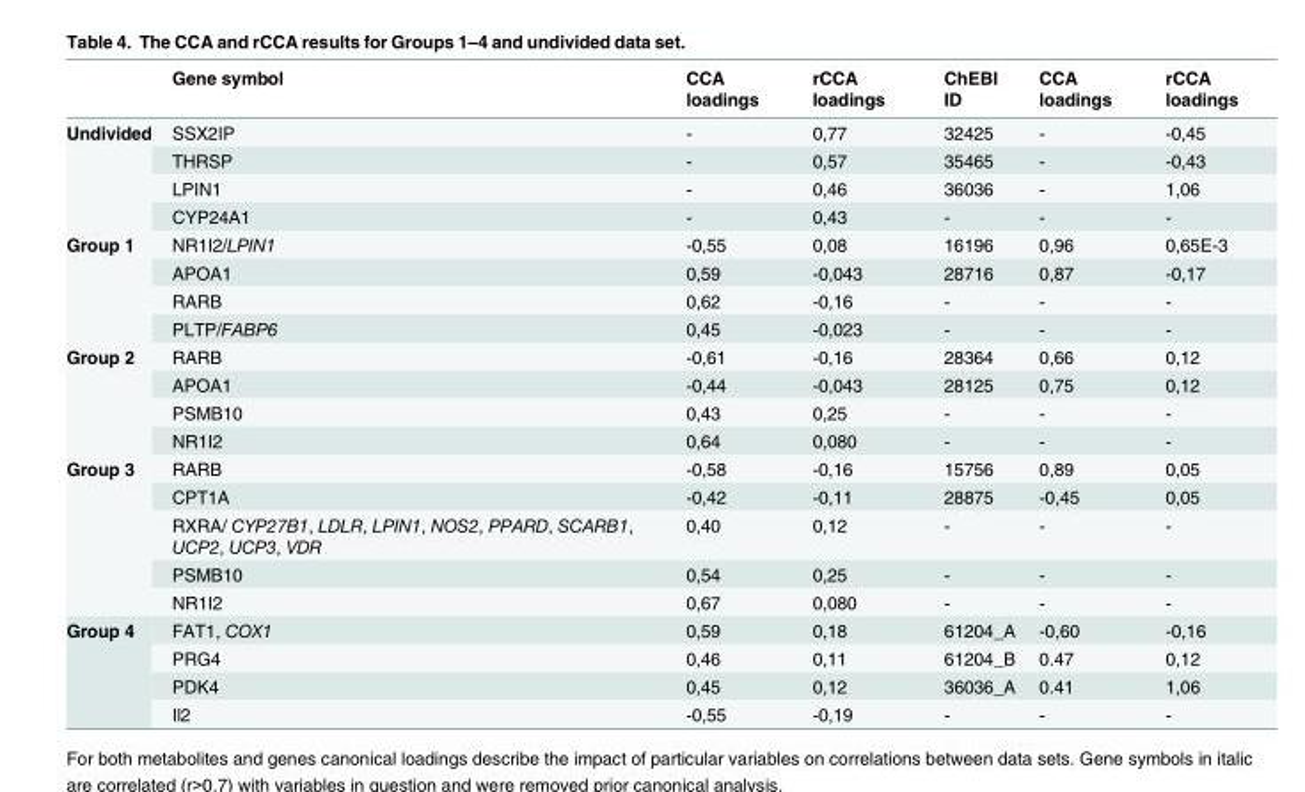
<table><thead><tr><td></td><td>Gene symbol</td><td>CCA loadings</td><td>rCCA loadings</td><td>ChEBI ID</td><td>CCA loadings</td><td>rCCA loadings</td></tr></thead><tbody><tr><td rowspan="4">Undivided</td><td>SSX2IP</td><td>-</td><td>0,77</td><td>32425</td><td>-</td><td>-0,45</td></tr><tr><td>THRSP</td><td>-</td><td>0,57</td><td>35465</td><td>-</td><td>-0,43</td></tr><tr><td>LPIN1</td><td>-</td><td>0,46</td><td>36036</td><td>-</td><td>1,06</td></tr><tr><td>CYP24A1</td><td>-</td><td>0,43</td><td>-</td><td>-</td><td>-</td></tr><tr><td rowspan="4">Group 1</td><td>NR1I2/LPIN1</td><td>-0,55</td><td>0,08</td><td>16196</td><td>0,96</td><td>0,65E-3</td></tr><tr><td>APOA1</td><td>0,59</td><td>-0,043</td><td>28716</td><td>0,87</td><td>-0,17</td></tr><tr><td>RARB</td><td>0,62</td><td>-0,16</td><td>-</td><td>-</td><td>-</td></tr><tr><td>PLTP/FABP6</td><td>0,45</td><td>-0,023</td><td>-</td><td>-</td><td>-</td></tr><tr><td rowspan="4">Group 2</td><td>RARB</td><td>-0,61</td><td>-0,16</td><td>28364</td><td>0,66</td><td>0,12</td></tr><tr><td>APOA1</td><td>-0,44</td><td>-0,043</td><td>28125</td><td>0,75</td><td>0,12</td></tr><tr><td>PSMB10</td><td>0,43</td><td>0,25</td><td>-</td><td>-</td><td>-</td></tr><tr><td>NR1I2</td><td>0,64</td><td>0,080</td><td>-</td><td>-</td><td>-</td></tr><tr><td rowspan="5">Group 3</td><td>RARB</td><td>-0,58</td><td>-0,16</td><td>15756</td><td>0,89</td><td>0,05</td></tr><tr><td>CPT1A</td><td>-0,42</td><td>-0,11</td><td>28875</td><td>-0,45</td><td>0,05</td></tr><tr><td>RXRA/ CYP27B1, LDLR, LPIN1, NOS2, PPARD, SCARB1, UCP2, UCP3, VDR</td><td>0,40</td><td>0,12</td><td>-</td><td>-</td><td>-</td></tr><tr><td>PSMB10</td><td>0,54</td><td>0,25</td><td>-</td><td>-</td><td>-</td></tr><tr><td>NR1I2</td><td>0,67</td><td>0,080</td><td>-</td><td>-</td><td>-</td></tr><tr><td rowspan="4">Group 4</td><td>FAT1, COX1</td><td>0,59</td><td>0,18</td><td>61204_A</td><td>-0,60</td><td>-0,16</td></tr><tr><td>PRG4</td><td>0,46</td><td>0,11</td><td>61204_B</td><td>0.47</td><td>0,12</td></tr><tr><td>PDK4</td><td>0,45</td><td>0,12</td><td>36036_A</td><td>0.41</td><td>1,06</td></tr><tr><td>Il2</td><td>-0,55</td><td>-0,19</td><td>-</td><td>-</td><td>-</td></tr></tbody></table>